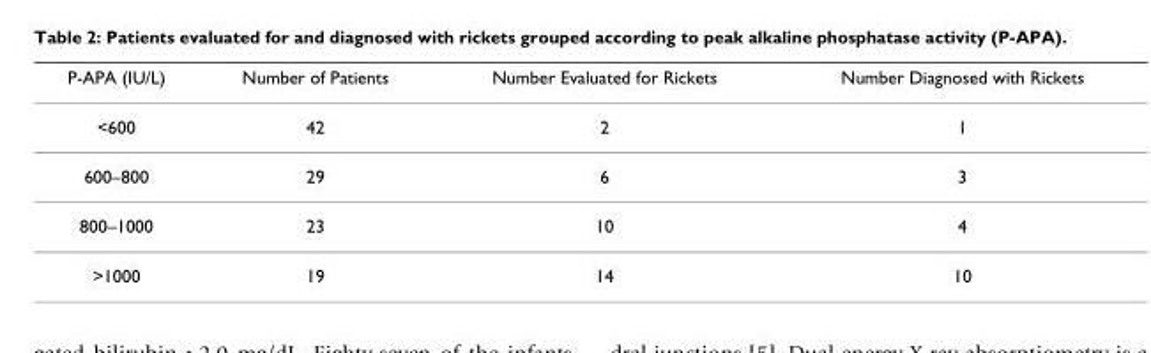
<table><thead><tr><td>P-APA (IU/L)</td><td>Number of Patients</td><td>Number Evaluated for Rickets</td><td>Number Diagnosed with Rickets</td></tr></thead><tbody><tr><td>&lt;600</td><td>42</td><td>2</td><td>1</td></tr><tr><td>600–800</td><td>29</td><td>6</td><td>3</td></tr><tr><td>800–1000</td><td>23</td><td>10</td><td>4</td></tr><tr><td>&gt;1000</td><td>19</td><td>14</td><td>10</td></tr></tbody></table>